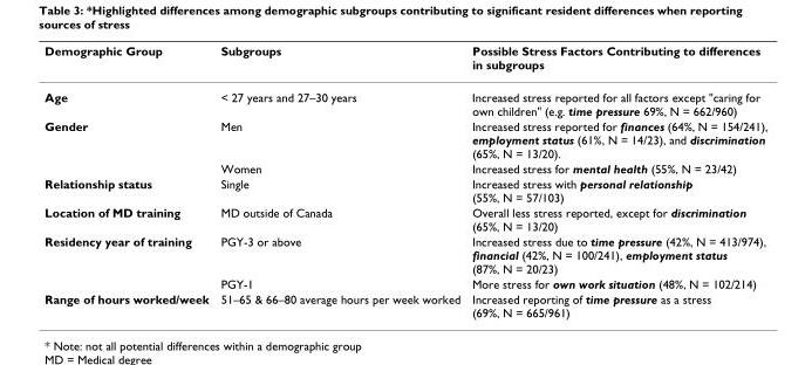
<table><thead><tr><td>Demographic Group</td><td>Subgroups</td><td>Possible Stress Factors Contributing to differences in subgroups</td></tr></thead><tbody><tr><td>Age</td><td>&lt; 27 years and 27–30 years</td><td>Increased stress reported for all factors except &quot;caring for own children&quot; (e.g. time pressure 69%, N = 662/960)</td></tr><tr><td rowspan="2">Gender</td><td>Men</td><td>Increased stress reported for finances (64%, N = 154/241), employment status (61%, N = 14/23), and discrimination (65%, N = 13/20).</td></tr><tr><td>Women</td><td>Increased stress for mental health (55%, N = 23/42)</td></tr><tr><td>Relationship status</td><td>Single</td><td>Increased stress with personal relationship (55%, N = 57/103)</td></tr><tr><td>Location of MD training</td><td>MD outside of Canada</td><td>Overall less stress reported, except for discrimination (65%, N = 13/20)</td></tr><tr><td rowspan="2">Residency year of training</td><td>PGY-3 or above</td><td>Increased stress due to time pressure (42%, N = 413/974), financial (42%, N = 100/241), employment status (87%, N = 20/23)</td></tr><tr><td>PGY-1</td><td>More stress for own work situation (48%, N = 102/214)</td></tr><tr><td>Range of hours worked/week</td><td>51–65 &amp; 66–80 average hours per week worked</td><td>Increased reporting of time pressure as a stress (69%, N = 665/961)</td></tr></tbody></table>